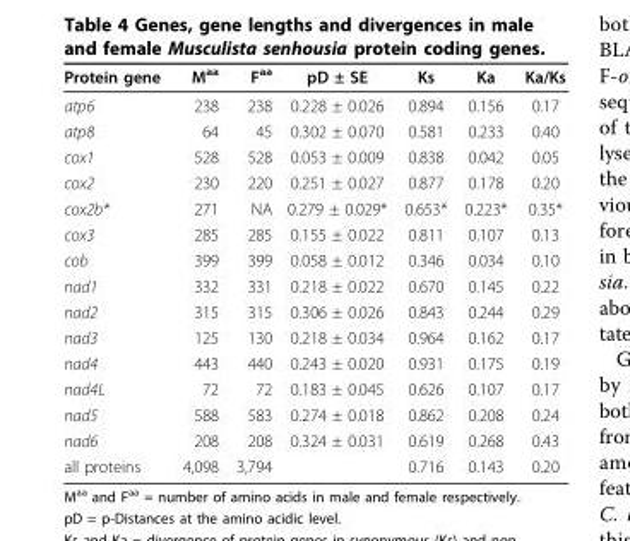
<table><thead><tr><td>Protein gene</td><td>M<sup>aa</sup></td><td>F<sup>aa</sup></td><td>pD ± SE</td><td>Ks</td><td>Ka</td><td>Ka/Ks</td></tr></thead><tbody><tr><td>atp6</td><td>238</td><td>238</td><td>0.228 ± 0.026</td><td>0.894</td><td>0.156</td><td>0.17</td></tr><tr><td>atp8</td><td>64</td><td>45</td><td>0.302 ± 0.070</td><td>0.581</td><td>0.233</td><td>0.40</td></tr><tr><td>cox1</td><td>528</td><td>528</td><td>0.053 ± 0.009</td><td>0.838</td><td>0.042</td><td>0.05</td></tr><tr><td>cox2</td><td>230</td><td>220</td><td>0.251 ± 0.027</td><td>0.877</td><td>0.178</td><td>0.20</td></tr><tr><td>cox2b*</td><td>271</td><td>NA</td><td>0.279 ± 0.029*</td><td>0.653*</td><td>0.223*</td><td>0.35*</td></tr><tr><td>cox3</td><td>285</td><td>285</td><td>0.155 ± 0.022</td><td>0.811</td><td>0.107</td><td>0.13</td></tr><tr><td>cob</td><td>399</td><td>399</td><td>0.058 ± 0.012</td><td>0.346</td><td>0.034</td><td>0.10</td></tr><tr><td>nad1</td><td>332</td><td>331</td><td>0.218 ± 0.022</td><td>0.670</td><td>0.145</td><td>0.22</td></tr><tr><td>nad2</td><td>315</td><td>315</td><td>0.306 ± 0.026</td><td>0.843</td><td>0.244</td><td>0.29</td></tr><tr><td>nad3</td><td>125</td><td>130</td><td>0.218 ± 0.034</td><td>0.964</td><td>0.162</td><td>0.17</td></tr><tr><td>nad4</td><td>443</td><td>440</td><td>0.243 ± 0.020</td><td>0.931</td><td>0.175</td><td>0.19</td></tr><tr><td>nad4L</td><td>72</td><td>72</td><td>0.183 ± 0.045</td><td>0.626</td><td>0.107</td><td>0.17</td></tr><tr><td>nad5</td><td>588</td><td>583</td><td>0.274 ± 0.018</td><td>0.862</td><td>0.208</td><td>0.24</td></tr><tr><td>nad6</td><td>208</td><td>208</td><td>0.324 ± 0.031</td><td>0.619</td><td>0.268</td><td>0.43</td></tr><tr><td>all proteins</td><td>4,098</td><td>3,794</td><td></td><td>0.716</td><td>0.143</td><td>0.20</td></tr></tbody></table>